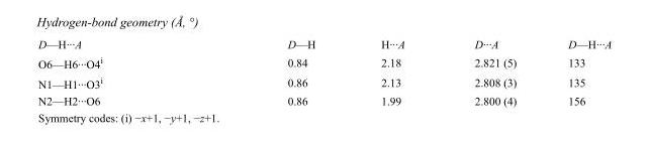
<table><tbody><tr><td>D—H···A</td><td>D—H</td><td>H···A</td><td>D···A</td><td>D—H···A</td></tr><tr><td>O6—H6···O4<sup>i</sup></td><td>0.84</td><td>2.18</td><td>2.821 (5)</td><td>133</td></tr><tr><td>N1—H1···O3<sup>i</sup></td><td>0.86</td><td>2.13</td><td>2.808 (3)</td><td>135</td></tr><tr><td>N2—H2···O6</td><td>0.86</td><td>1.99</td><td>2.800 (4)</td><td>156</td></tr></tbody></table>